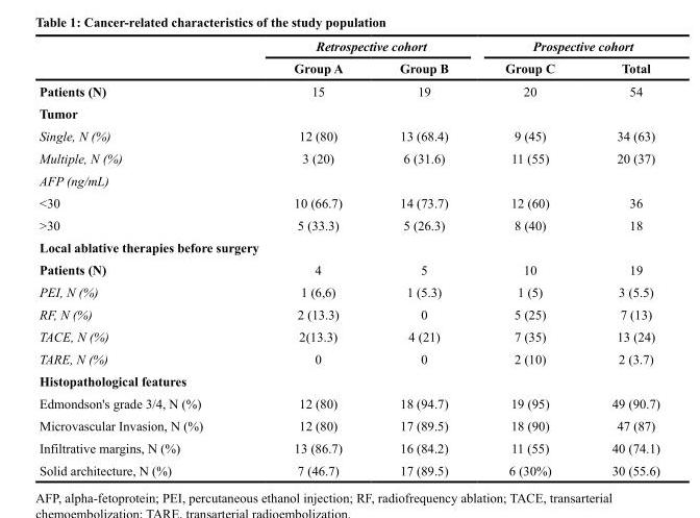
<table><thead><tr><td rowspan="2"></td><td colspan="2">Retrospective cohort</td><td colspan="2">Prospective cohort</td></tr><tr><td>Group A</td><td>Group B</td><td>Group C</td><td>Total</td></tr></thead><tbody><tr><td>Patients (N)</td><td>15</td><td>19</td><td>20</td><td>54</td></tr><tr><td colspan="5">Tumor</td></tr><tr><td>Single, N (%)</td><td>12 (80)</td><td>13 (68.4)</td><td>9 (45)</td><td>34 (63)</td></tr><tr><td>Multiple, N (%)</td><td>3 (20)</td><td>6 (31.6)</td><td>11 (55)</td><td>20 (37)</td></tr><tr><td colspan="5">AFP (ng/mL)</td></tr><tr><td>&lt;30</td><td>10 (66.7)</td><td>14 (73.7)</td><td>12 (60)</td><td>36</td></tr><tr><td>&gt;30</td><td>5 (33.3)</td><td>5 (26.3)</td><td>8 (40)</td><td>18</td></tr><tr><td colspan="5">Local ablative therapies before surgery</td></tr><tr><td>Patients (N)</td><td>4</td><td>5</td><td>10</td><td>19</td></tr><tr><td>PEI, N (%)</td><td>1 (6,6)</td><td>1 (5.3)</td><td>1 (5)</td><td>3 (5.5)</td></tr><tr><td>RF, N (%)</td><td>2 (13.3)</td><td>0</td><td>5 (25)</td><td>7 (13)</td></tr><tr><td>TACE, N (%)</td><td>2(13.3)</td><td>4 (21)</td><td>7 (35)</td><td>13 (24)</td></tr><tr><td>TARE, N (%)</td><td>0</td><td>0</td><td>2 (10)</td><td>2 (3.7)</td></tr><tr><td colspan="5">Histopathological features</td></tr><tr><td>Edmondson&#x27;s grade 3/4, N (%)</td><td>12 (80)</td><td>18 (94.7)</td><td>19 (95)</td><td>49 (90.7)</td></tr><tr><td>Microvascular Invasion, N (%)</td><td>12 (80)</td><td>17 (89.5)</td><td>18 (90)</td><td>47 (87)</td></tr><tr><td>Infiltrative margins, N (%)</td><td>13 (86.7)</td><td>16 (84.2)</td><td>11 (55)</td><td>40 (74.1)</td></tr><tr><td>Solid architecture, N (%)</td><td>7 (46.7)</td><td>17 (89.5)</td><td>6 (30%)</td><td>30 (55.6)</td></tr></tbody></table>